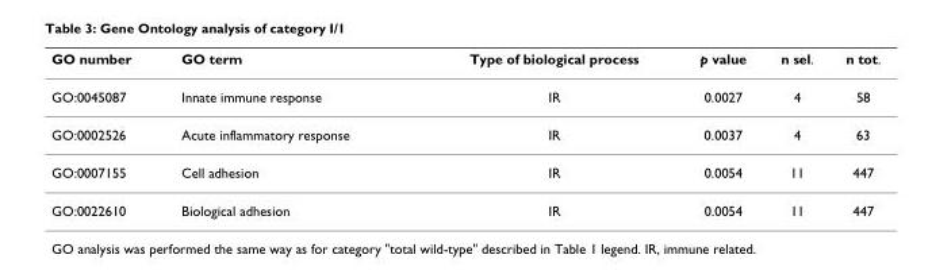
<table><thead><tr><td>GO number</td><td>GO term</td><td>Type of biological process</td><td>p value</td><td>n sel.</td><td>n tot.</td></tr></thead><tbody><tr><td>GO:0045087</td><td>Innate immune response</td><td>IR</td><td>0.0027</td><td>4</td><td>58</td></tr><tr><td>GO:0002526</td><td>Acute inflammatory response</td><td>IR</td><td>0.0037</td><td>4</td><td>63</td></tr><tr><td>GO:0007155</td><td>Cell adhesion</td><td>IR</td><td>0.0054</td><td>11</td><td>447</td></tr><tr><td>GO:0022610</td><td>Biological adhesion</td><td>IR</td><td>0.0054</td><td>11</td><td>447</td></tr></tbody></table>